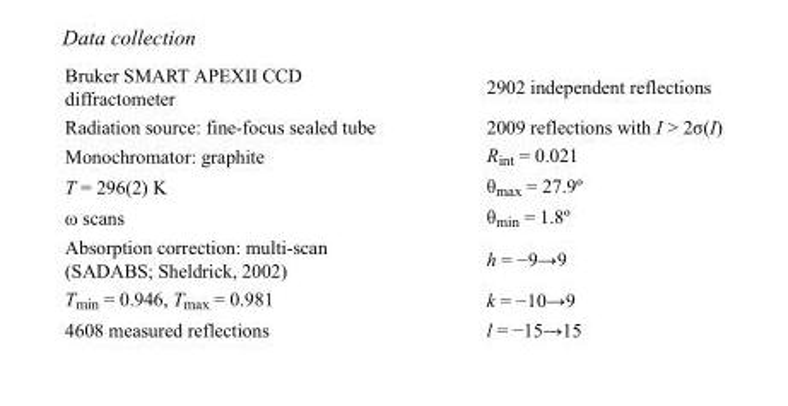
<table><tbody><tr><td>Bruker SMART APEXII CCD diffractometer</td><td>2902 independent reflections</td></tr><tr><td>Radiation source: fine-focus sealed tube</td><td>2009 reflections with I &gt; 2σ(I)</td></tr><tr><td>Monochromator: graphite</td><td>R<sub>int</sub> = 0.021</td></tr><tr><td>T = 296(2) K</td><td>θ<sub>max</sub> = 27.9º</td></tr><tr><td>ω scans</td><td>θ<sub>min</sub> = 1.8º</td></tr><tr><td>Absorption correction: multi-scan (SADABS; Sheldrick, 2002)</td><td>h = −9→9</td></tr><tr><td>T<sub>min</sub> = 0.946, T<sub>max</sub> = 0.981</td><td>k = −10→9</td></tr><tr><td>4608 measured reflections</td><td>l = −15→15</td></tr></tbody></table>